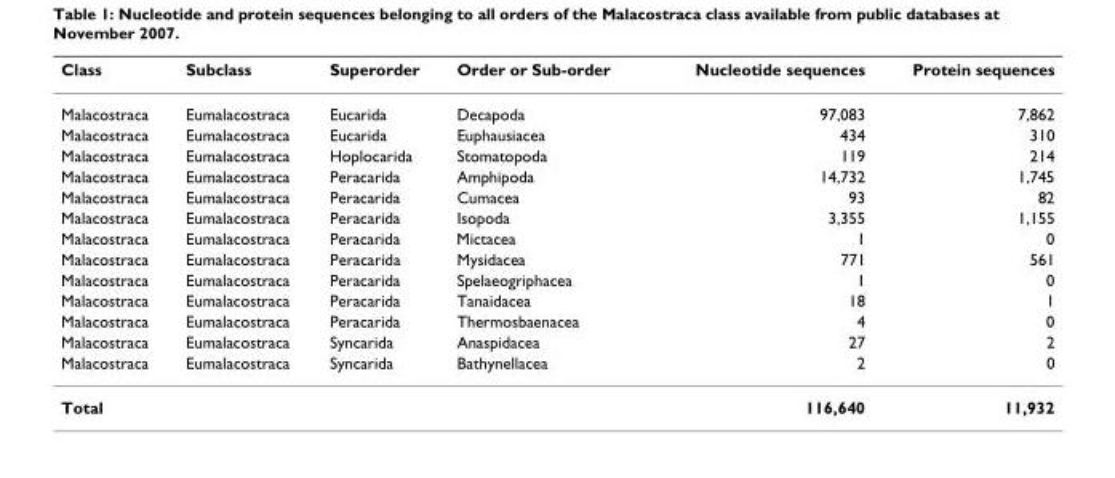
<table><thead><tr><td>Class</td><td>Subclass</td><td>Superorder</td><td>Order or Sub-order</td><td>Nucleotide sequences</td><td>Protein sequences</td></tr></thead><tbody><tr><td>Malacostraca</td><td>Eumalacostraca</td><td>Eucarida</td><td>Decapoda</td><td>97,083</td><td>7,862</td></tr><tr><td>Malacostraca</td><td>Eumalacostraca</td><td>Eucarida</td><td>Euphausiacea</td><td>434</td><td>310</td></tr><tr><td>Malacostraca</td><td>Eumalacostraca</td><td>Hoplocarida</td><td>Stomatopoda</td><td>119</td><td>214</td></tr><tr><td>Malacostraca</td><td>Eumalacostraca</td><td>Peracarida</td><td>Amphipoda</td><td>14,732</td><td>1,745</td></tr><tr><td>Malacostraca</td><td>Eumalacostraca</td><td>Peracarida</td><td>Cumacea</td><td>93</td><td>82</td></tr><tr><td>Malacostraca</td><td>Eumalacostraca</td><td>Peracarida</td><td>Isopoda</td><td>3,355</td><td>1,155</td></tr><tr><td>Malacostraca</td><td>Eumalacostraca</td><td>Peracarida</td><td>Mictacea</td><td>1</td><td>0</td></tr><tr><td>Malacostraca</td><td>Eumalacostraca</td><td>Peracarida</td><td>Mysidacea</td><td>771</td><td>561</td></tr><tr><td>Malacostraca</td><td>Eumalacostraca</td><td>Peracarida</td><td>Spelaeogriphacea</td><td>1</td><td>0</td></tr><tr><td>Malacostraca</td><td>Eumalacostraca</td><td>Peracarida</td><td>Tanaidacea</td><td>18</td><td>1</td></tr><tr><td>Malacostraca</td><td>Eumalacostraca</td><td>Peracarida</td><td>Thermosbaenacea</td><td>4</td><td>0</td></tr><tr><td>Malacostraca</td><td>Eumalacostraca</td><td>Syncarida</td><td>Anaspidacea</td><td>27</td><td>2</td></tr><tr><td>Malacostraca</td><td>Eumalacostraca</td><td>Syncarida</td><td>Bathynellacea</td><td>2</td><td>0</td></tr><tr><td>Total</td><td></td><td></td><td></td><td>116,640</td><td>11,932</td></tr></tbody></table>